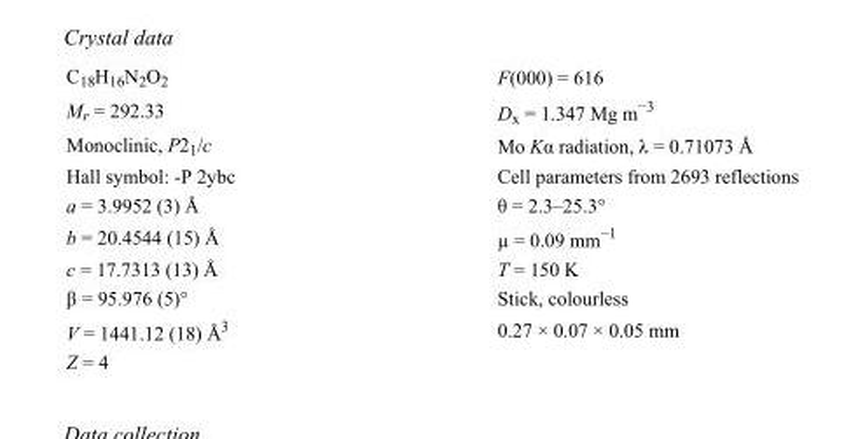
<table><tbody><tr><td>C<sub>18</sub>H<sub>16</sub>N<sub>2</sub>O<sub>2</sub></td><td>F(000) = 616</td></tr><tr><td>M<sub>r</sub> = 292.33</td><td>D<sub>x</sub> = 1.347 Mg m<sup>−3</sup></td></tr><tr><td>Monoclinic, P2<sub>1</sub>/c</td><td>Mo Kα radiation, λ = 0.71073 Å</td></tr><tr><td>Hall symbol: -P 2ybc</td><td>Cell parameters from 2693 reflections</td></tr><tr><td>a = 3.9952 (3) Å</td><td>θ = 2.3–25.3°</td></tr><tr><td>b = 20.4544 (15) Å</td><td>µ = 0.09 mm<sup>−1</sup></td></tr><tr><td>c = 17.7313 (13) Å</td><td>T = 150 K</td></tr><tr><td>β = 95.976 (5)°</td><td>Stick, colourless</td></tr><tr><td>V = 1441.12 (18) Å<sup>3</sup></td><td>0.27 × 0.07 × 0.05 mm</td></tr><tr><td>Z = 4</td><td></td></tr></tbody></table>